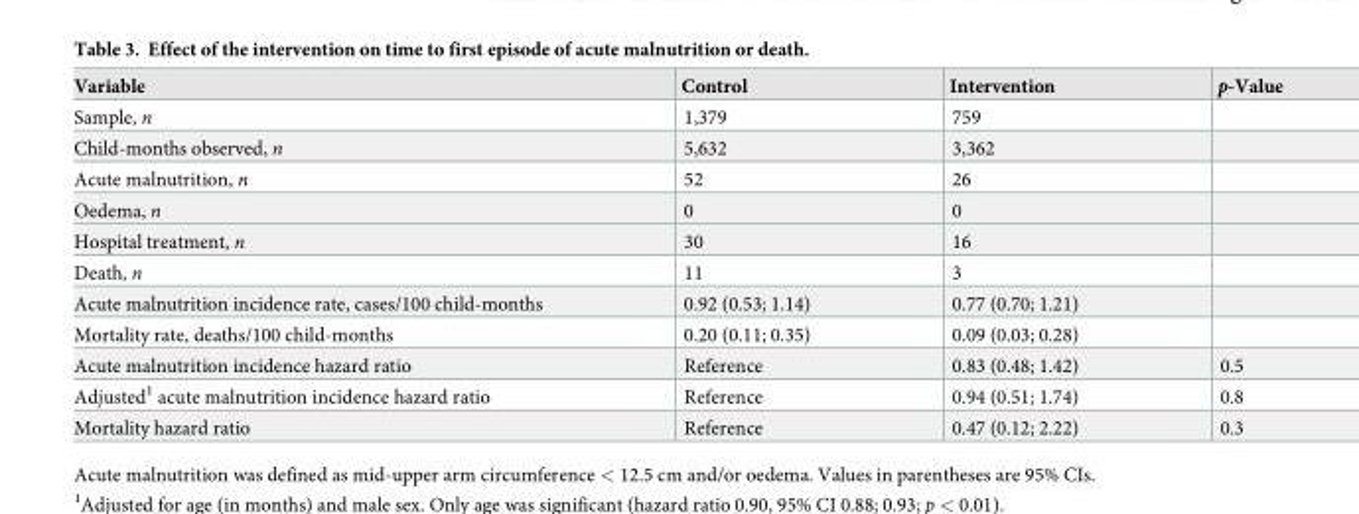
<table><thead><tr><td>Variable</td><td>Control</td><td>Intervention</td><td>p-Value</td></tr></thead><tbody><tr><td>Sample, n</td><td>1,379</td><td>759</td><td></td></tr><tr><td>Child-months observed, n</td><td>5,632</td><td>3,362</td><td></td></tr><tr><td>Acute malnutrition, n</td><td>52</td><td>26</td><td></td></tr><tr><td>Oedema, n</td><td>0</td><td>0</td><td></td></tr><tr><td>Hospital treatment, n</td><td>30</td><td>16</td><td></td></tr><tr><td>Death, n</td><td>11</td><td>3</td><td></td></tr><tr><td>Acute malnutrition incidence rate, cases/100 child-months</td><td>0.92 (0.53; 1.14)</td><td>0.77 (0.70; 1.21)</td><td></td></tr><tr><td>Mortality rate, deaths/100 child-months</td><td>0.20 (0.11; 0.35)</td><td>0.09 (0.03; 0.28)</td><td></td></tr><tr><td>Acute malnutrition incidence hazard ratio</td><td>Reference</td><td>0.83 (0.48; 1.42)</td><td>0.5</td></tr><tr><td>Adjusted<sup>1</sup> acute malnutrition incidence hazard ratio</td><td>Reference</td><td>0.94 (0.51; 1.74)</td><td>0.8</td></tr><tr><td>Mortality hazard ratio</td><td>Reference</td><td>0.47 (0.12; 2.22)</td><td>0.3</td></tr></tbody></table>